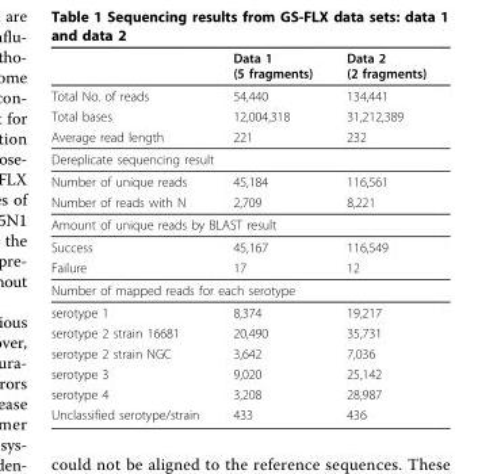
<table><thead><tr><td></td><td>Data 1 (5 fragments)</td><td>Data 2 (2 fragments)</td></tr></thead><tbody><tr><td>Total No. of reads</td><td>54,440</td><td>134,441</td></tr><tr><td>Total bases</td><td>12,004,318</td><td>31,212,389</td></tr><tr><td>Average read length</td><td>221</td><td>232</td></tr><tr><td colspan="3">Dereplicate sequencing result</td></tr><tr><td>Number of unique reads</td><td>45,184</td><td>116,561</td></tr><tr><td>Number of reads with N</td><td>2,709</td><td>8,221</td></tr><tr><td colspan="3">Amount of unique reads by BLAST result</td></tr><tr><td>Success</td><td>45,167</td><td>116,549</td></tr><tr><td>Failure</td><td>17</td><td>12</td></tr><tr><td colspan="3">Number of mapped reads for each serotype</td></tr><tr><td>serotype 1</td><td>8,374</td><td>19,217</td></tr><tr><td>serotype 2 strain 16681</td><td>20,490</td><td>35,731</td></tr><tr><td>serotype 2 strain NGC</td><td>3,642</td><td>7,036</td></tr><tr><td>serotype 3</td><td>9,020</td><td>25,142</td></tr><tr><td>serotype 4</td><td>3,208</td><td>28,987</td></tr><tr><td>Unclassified serotype/strain</td><td>433</td><td>436</td></tr></tbody></table>